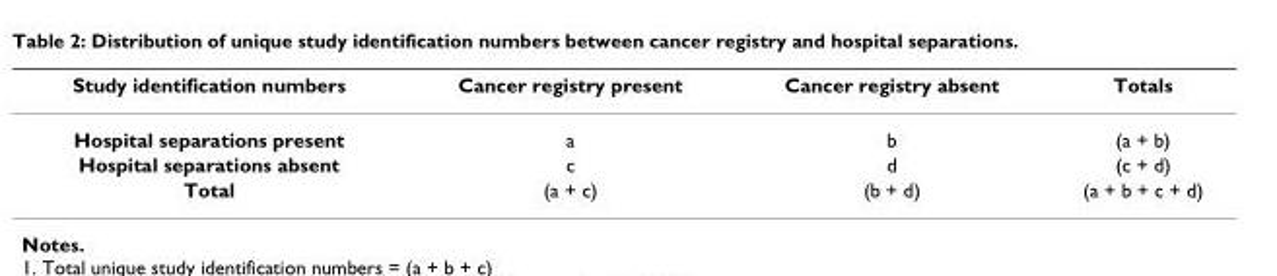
<table><thead><tr><td>Study identification numbers</td><td>Cancer registry present</td><td>Cancer registry absent</td><td>Totals</td></tr></thead><tbody><tr><td>Hospital separations present</td><td>a</td><td>b</td><td>(a + b)</td></tr><tr><td>Hospital separations absent</td><td>c</td><td>d</td><td>(c + d)</td></tr><tr><td>Total</td><td>(a + c)</td><td>(b + d)</td><td>(a + b + c + d)</td></tr></tbody></table>